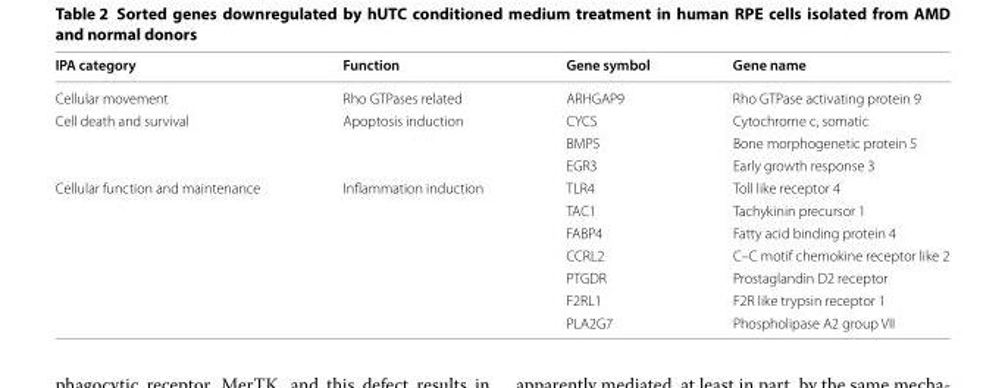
<table><thead><tr><td>IPA category</td><td>Function</td><td>Gene symbol</td><td>Gene name</td></tr></thead><tbody><tr><td>Cellular movement</td><td>Rho GTPases related</td><td>ARHGAP9</td><td>Rho GTPase activating protein 9</td></tr><tr><td rowspan="3">Cell death and survival</td><td>Apoptosis induction</td><td>CYCS</td><td>Cytochrome c, somatic</td></tr><tr><td></td><td>BMP5</td><td>Bone morphogenetic protein 5</td></tr><tr><td></td><td>EGR3</td><td>Early growth response 3</td></tr><tr><td rowspan="7">Cellular function and maintenance</td><td>Inflammation induction</td><td>TLR4</td><td>Toll like receptor 4</td></tr><tr><td></td><td>TAC1</td><td>Tachykinin precursor 1</td></tr><tr><td></td><td>FABP4</td><td>Fatty acid binding protein 4</td></tr><tr><td></td><td>CCRL2</td><td>C–C motif chemokine receptor like 2</td></tr><tr><td></td><td>PTGDR</td><td>Prostaglandin D2 receptor</td></tr><tr><td></td><td>F2RL1</td><td>F2R like trypsin receptor 1</td></tr><tr><td></td><td>PLA2G7</td><td>Phospholipase A2 group VII</td></tr></tbody></table>